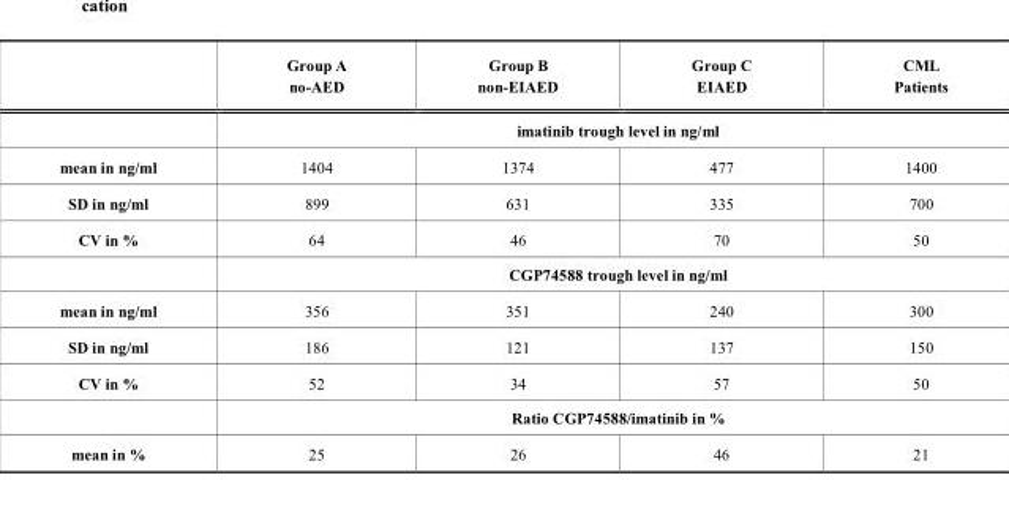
<table><thead><tr><td rowspan="2"></td><td>Group A no-AED</td><td>Group B non-EIAED</td><td>Group C EIAED</td><td>CML Patients</td></tr><tr><td colspan="4">imatinib trough level in ng/ml</td></tr></thead><tbody><tr><td>mean in ng/ml</td><td>1404</td><td>1374</td><td>477</td><td>1400</td></tr><tr><td>SD in ng/ml</td><td>899</td><td>631</td><td>335</td><td>700</td></tr><tr><td rowspan="2">CV in %</td><td>64</td><td>46</td><td>70</td><td>50</td></tr><tr><td colspan="4">CGP74588 trough level in ng/ml</td></tr><tr><td>mean in ng/ml</td><td>356</td><td>351</td><td>240</td><td>300</td></tr><tr><td>SD in ng/ml</td><td>186</td><td>121</td><td>137</td><td>150</td></tr><tr><td rowspan="2">CV in %</td><td>52</td><td>34</td><td>57</td><td>50</td></tr><tr><td colspan="4">Ratio CGP74588/imatinib in %</td></tr><tr><td>mean in %</td><td>25</td><td>26</td><td>46</td><td>21</td></tr></tbody></table>